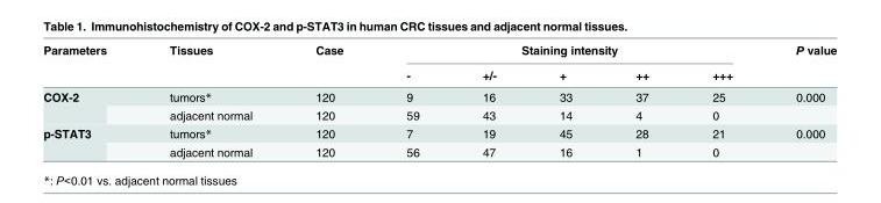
<table><thead><tr><td rowspan="2">Parameters</td><td rowspan="2">Tissues</td><td rowspan="2">Case</td><td colspan="5">Staining intensity</td><td rowspan="2">P value</td></tr><tr><td>-</td><td>+/-</td><td>+</td><td>++</td><td>+++</td></tr></thead><tbody><tr><td rowspan="2">COX-2</td><td>tumors*</td><td>120</td><td>9</td><td>16</td><td>33</td><td>37</td><td>25</td><td>0.000</td></tr><tr><td>adjacent normal</td><td>120</td><td>59</td><td>43</td><td>14</td><td>4</td><td>0</td><td></td></tr><tr><td rowspan="2">p-STAT3</td><td>tumors*</td><td>120</td><td>7</td><td>19</td><td>45</td><td>28</td><td>21</td><td>0.000</td></tr><tr><td>adjacent normal</td><td>120</td><td>56</td><td>47</td><td>16</td><td>1</td><td>0</td><td></td></tr></tbody></table>